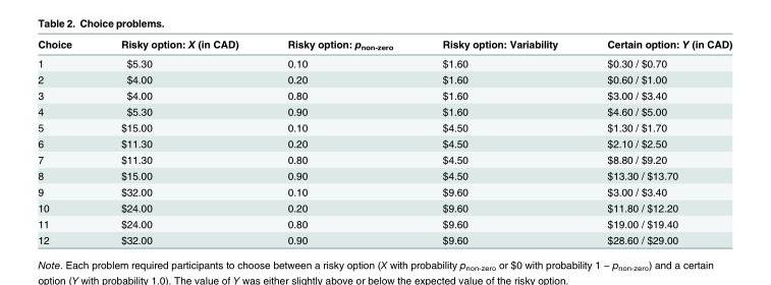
<table><thead><tr><td>Choice</td><td>Risky option: X (in CAD)</td><td>Risky option: p<sub>non-zero</sub></td><td>Risky option: Variability</td><td>Certain option: Y (in CAD)</td></tr></thead><tbody><tr><td>1</td><td>$5.30</td><td>0.10</td><td>$1.60</td><td>$0.30 / $0.70</td></tr><tr><td>2</td><td>$4.00</td><td>0.20</td><td>$1.60</td><td>$0.60 / $1.00</td></tr><tr><td>3</td><td>$4.00</td><td>0.80</td><td>$1.60</td><td>$3.00 / $3.40</td></tr><tr><td>4</td><td>$5.30</td><td>0.90</td><td>$1.60</td><td>$4.60 / $5.00</td></tr><tr><td>5</td><td>$15.00</td><td>0.10</td><td>$4.50</td><td>$1.30 / $1.70</td></tr><tr><td>6</td><td>$11.30</td><td>0.20</td><td>$4.50</td><td>$2.10 / $2.50</td></tr><tr><td>7</td><td>$11.30</td><td>0.80</td><td>$4.50</td><td>$8.80 / $9.20</td></tr><tr><td>8</td><td>$15.00</td><td>0.90</td><td>$4.50</td><td>$13.30 / $13.70</td></tr><tr><td>9</td><td>$32.00</td><td>0.10</td><td>$9.60</td><td>$3.00 / $3.40</td></tr><tr><td>10</td><td>$24.00</td><td>0.20</td><td>$9.60</td><td>$11.80 / $12.20</td></tr><tr><td>11</td><td>$24.00</td><td>0.80</td><td>$9.60</td><td>$19.00 / $19.40</td></tr><tr><td>12</td><td>$32.00</td><td>0.90</td><td>$9.60</td><td>$28.60 / $29.00</td></tr></tbody></table>